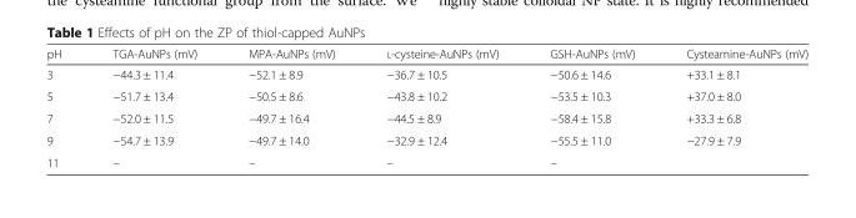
<table><thead><tr><td>pH</td><td>TGA-AuNPs (mV)</td><td>MPA-AuNPs (mV)</td><td>L-cysteine-AuNPs (mV)</td><td>GSH-AuNPs (mV)</td><td>Cysteamine-AuNPs (mV)</td></tr></thead><tbody><tr><td>3</td><td>−44.3 ± 11.4</td><td>−52.1 ± 8.9</td><td>−36.7 ± 10.5</td><td>−50.6 ± 14.6</td><td>+33.1 ± 8.1</td></tr><tr><td>5</td><td>−51.7 ± 13.4</td><td>−50.5 ± 8.6</td><td>−43.8 ± 10.2</td><td>−53.5 ± 10.3</td><td>+37.0 ± 8.0</td></tr><tr><td>7</td><td>−52.0 ± 11.5</td><td>−49.7 ± 16.4</td><td>−44.5 ± 8.9</td><td>−58.4 ± 15.8</td><td>+33.3 ± 6.8</td></tr><tr><td>9</td><td>−54.7 ± 13.9</td><td>−49.7 ± 14.0</td><td>−32.9 ± 12.4</td><td>−55.5 ± 11.0</td><td>−27.9 ± 7.9</td></tr><tr><td>11</td><td>–</td><td>–</td><td>–</td><td>–</td><td></td></tr></tbody></table>